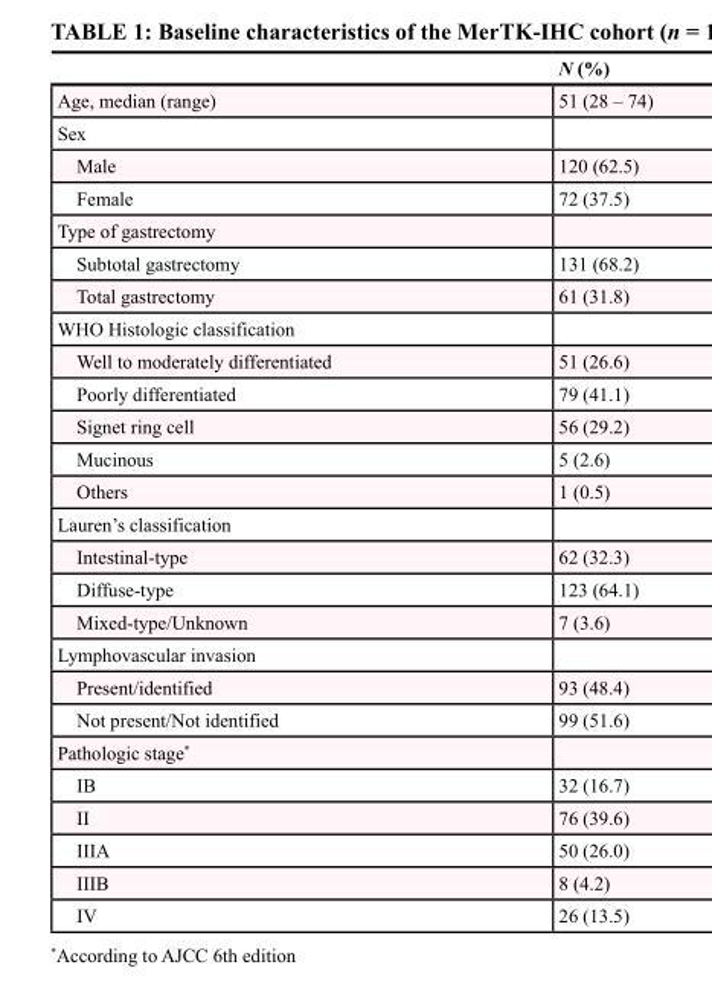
<table><thead><tr><td></td><td>N (%)</td></tr></thead><tbody><tr><td>Age, median (range)</td><td>51 (28 – 74)</td></tr><tr><td colspan="2">Sex</td></tr><tr><td>Male</td><td>120 (62.5)</td></tr><tr><td>Female</td><td>72 (37.5)</td></tr><tr><td colspan="2">Type of gastrectomy</td></tr><tr><td>Subtotal gastrectomy</td><td>131 (68.2)</td></tr><tr><td>Total gastrectomy</td><td>61 (31.8)</td></tr><tr><td colspan="2">WHO Histologic classification</td></tr><tr><td>Well to moderately differentiated</td><td>51 (26.6)</td></tr><tr><td>Poorly differentiated</td><td>79 (41.1)</td></tr><tr><td>Signet ring cell</td><td>56 (29.2)</td></tr><tr><td>Mucinous</td><td>5 (2.6)</td></tr><tr><td>Others</td><td>1 (0.5)</td></tr><tr><td colspan="2">Lauren’s classification</td></tr><tr><td>Intestinal-type</td><td>62 (32.3)</td></tr><tr><td>Diffuse-type</td><td>123 (64.1)</td></tr><tr><td>Mixed-type/Unknown</td><td>7 (3.6)</td></tr><tr><td colspan="2">Lymphovascular invasion</td></tr><tr><td>Present/identified</td><td>93 (48.4)</td></tr><tr><td>Not present/Not identified</td><td>99 (51.6)</td></tr><tr><td colspan="2">Pathologic stage*</td></tr><tr><td>IB</td><td>32 (16.7)</td></tr><tr><td>II</td><td>76 (39.6)</td></tr><tr><td>IIIA</td><td>50 (26.0)</td></tr><tr><td>IIIB</td><td>8 (4.2)</td></tr><tr><td>IV</td><td>26 (13.5)</td></tr></tbody></table>